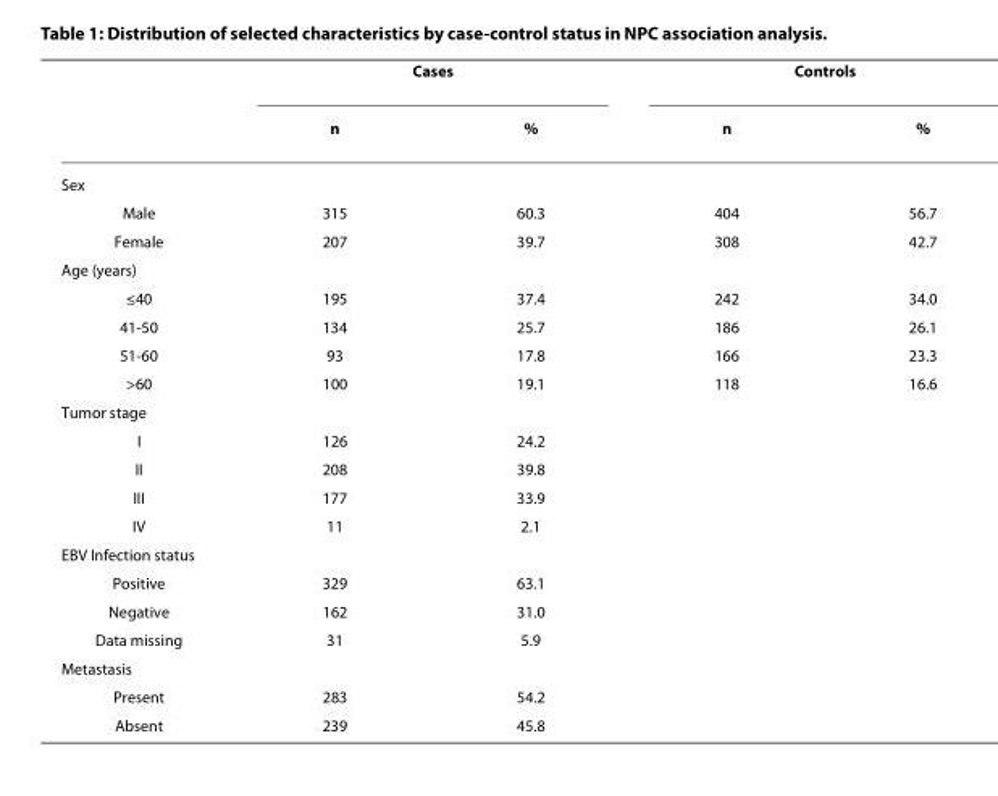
<table><thead><tr><td rowspan="2"></td><td colspan="2">Cases</td><td colspan="2">Controls</td></tr><tr><td>n</td><td>%</td><td>n</td><td>%</td></tr></thead><tbody><tr><td colspan="5">Sex</td></tr><tr><td>Male</td><td>315</td><td>60.3</td><td>404</td><td>56.7</td></tr><tr><td>Female</td><td>207</td><td>39.7</td><td>308</td><td>42.7</td></tr><tr><td colspan="5">Age (years)</td></tr><tr><td>≤40</td><td>195</td><td>37.4</td><td>242</td><td>34.0</td></tr><tr><td>41-50</td><td>134</td><td>25.7</td><td>186</td><td>26.1</td></tr><tr><td>51-60</td><td>93</td><td>17.8</td><td>166</td><td>23.3</td></tr><tr><td>&gt;60</td><td>100</td><td>19.1</td><td>118</td><td>16.6</td></tr><tr><td colspan="5">Tumor stage</td></tr><tr><td>I</td><td>126</td><td>24.2</td><td></td><td></td></tr><tr><td>II</td><td>208</td><td>39.8</td><td></td><td></td></tr><tr><td>III</td><td>177</td><td>33.9</td><td></td><td></td></tr><tr><td>IV</td><td>11</td><td>2.1</td><td></td><td></td></tr><tr><td colspan="5">EBV Infection status</td></tr><tr><td>Positive</td><td>329</td><td>63.1</td><td></td><td></td></tr><tr><td>Negative</td><td>162</td><td>31.0</td><td></td><td></td></tr><tr><td>Data missing</td><td>31</td><td>5.9</td><td></td><td></td></tr><tr><td colspan="5">Metastasis</td></tr><tr><td>Present</td><td>283</td><td>54.2</td><td></td><td></td></tr><tr><td>Absent</td><td>239</td><td>45.8</td><td></td><td></td></tr></tbody></table>